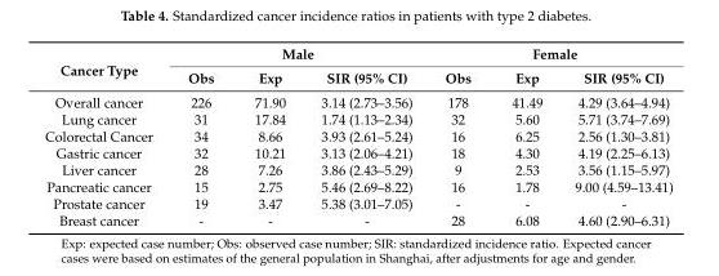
<table><thead><tr><td rowspan="2">Cancer Type</td><td colspan="3">Male</td><td colspan="3">Female</td></tr><tr><td>Obs</td><td>Exp</td><td>SIR (95% CI)</td><td>Obs</td><td>Exp</td><td>SIR (95% CI)</td></tr></thead><tbody><tr><td>Overall cancer</td><td>226</td><td>71.90</td><td>3.14 (2.73–3.56)</td><td>178</td><td>41.49</td><td>4.29 (3.64–4.94)</td></tr><tr><td>Lung cancer</td><td>31</td><td>17.84</td><td>1.74 (1.13–2.34)</td><td>32</td><td>5.60</td><td>5.71 (3.74–7.69)</td></tr><tr><td>Colorectal Cancer</td><td>34</td><td>8.66</td><td>3.93 (2.61–5.24)</td><td>16</td><td>6.25</td><td>2.56 (1.30–3.81)</td></tr><tr><td>Gastric cancer</td><td>32</td><td>10.21</td><td>3.13 (2.06–4.21)</td><td>18</td><td>4.30</td><td>4.19 (2.25–6.13)</td></tr><tr><td>Liver cancer</td><td>28</td><td>7.26</td><td>3.86 (2.43–5.29)</td><td>9</td><td>2.53</td><td>3.56 (1.15–5.97)</td></tr><tr><td>Pancreatic cancer</td><td>15</td><td>2.75</td><td>5.46 (2.69–8.22)</td><td>16</td><td>1.78</td><td>9.00 (4.59–13.41)</td></tr><tr><td>Prostate cancer</td><td>19</td><td>3.47</td><td>5.38 (3.01–7.05)</td><td>-</td><td>-</td><td>-</td></tr><tr><td>Breast cancer</td><td>-</td><td>-</td><td>-</td><td>28</td><td>6.08</td><td>4.60 (2.90–6.31)</td></tr></tbody></table>